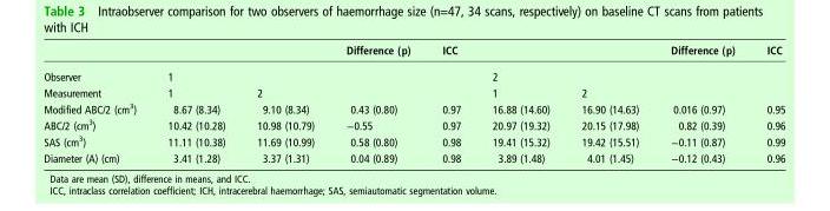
<table><thead><tr><td></td><td></td><td></td><td>Difference (p)</td><td>ICC</td><td></td><td></td><td>Difference (p)</td><td>ICC</td></tr></thead><tbody><tr><td>Observer</td><td>1</td><td></td><td></td><td></td><td>2</td><td></td><td></td><td></td></tr><tr><td>Measurement</td><td>1</td><td>2</td><td></td><td></td><td>1</td><td>2</td><td></td><td></td></tr><tr><td>Modified ABC/2 (cm<sup>3</sup>)</td><td>8.67 (8.34)</td><td>9.10 (8.34)</td><td>0.43 (0.80)</td><td>0.97</td><td>16.88 (14.60)</td><td>16.90 (14.63)</td><td>0.016 (0.97)</td><td>0.95</td></tr><tr><td>ABC/2 (cm<sup>3</sup>)</td><td>10.42 (10.28)</td><td>10.98 (10.79)</td><td>−0.55</td><td>0.97</td><td>20.97 (19.32)</td><td>20.15 (17.98)</td><td>0.82 (0.39)</td><td>0.96</td></tr><tr><td>SAS (cm<sup>3</sup>)</td><td>11.11 (10.38)</td><td>11.69 (10.99)</td><td>0.58 (0.80)</td><td>0.98</td><td>19.41 (15.32)</td><td>19.42 (15.51)</td><td>−0.11 (0.87)</td><td>0.99</td></tr><tr><td>Diameter (A) (cm)</td><td>3.41 (1.28)</td><td>3.37 (1.31)</td><td>0.04 (0.89)</td><td>0.98</td><td>3.89 (1.48)</td><td>4.01 (1.45)</td><td>−0.12 (0.43)</td><td>0.96</td></tr></tbody></table>